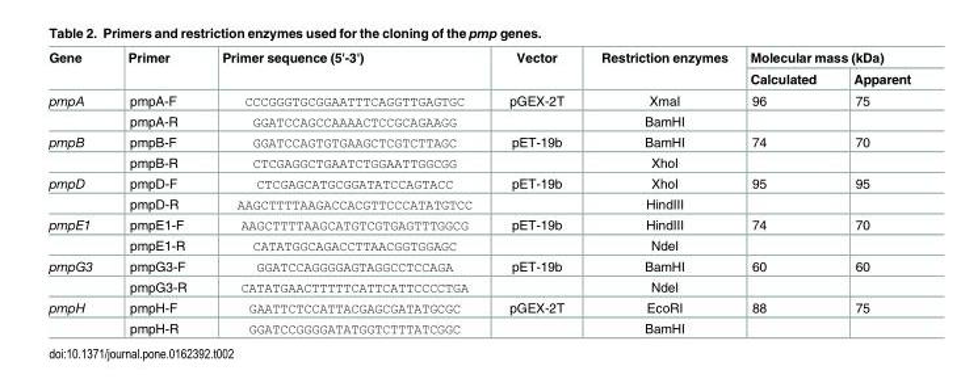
<table><thead><tr><td rowspan="2">Gene</td><td rowspan="2">Primer</td><td rowspan="2">Primer sequence (5&#x27;-3&#x27;)</td><td rowspan="2">Vector</td><td rowspan="2">Restriction enzymes</td><td colspan="2">Molecular mass (kDa)</td></tr><tr><td>Calculated</td><td>Apparent</td></tr></thead><tbody><tr><td rowspan="2">pmpA</td><td>pmpA-F</td><td>CCCGGGTGCGGAATTTCAGGTTGAGTGC</td><td>pGEX-2T</td><td>XmaI</td><td>96</td><td>75</td></tr><tr><td>pmpA-R</td><td>GGATCCAGCCAAAACTCCGCAGAAGG</td><td></td><td>BamHI</td><td></td><td></td></tr><tr><td rowspan="2">pmpB</td><td>pmpB-F</td><td>GGATCCAGTGTGAAGCTCGTCTTAGC</td><td>pET-19b</td><td>BamHI</td><td>74</td><td>70</td></tr><tr><td>pmpB-R</td><td>CTCGAGGCTGAATCTGGAATTGGCGG</td><td></td><td>XhoI</td><td></td><td></td></tr><tr><td rowspan="2">pmpD</td><td>pmpD-F</td><td>CTCGAGCATGCGGATATCCAGTACC</td><td>pET-19b</td><td>XhoI</td><td>95</td><td>95</td></tr><tr><td>pmpD-R</td><td>AAGCTTTTAAGACCACGTTCCCATATGTCC</td><td></td><td>HindIII</td><td></td><td></td></tr><tr><td rowspan="2">pmpE1</td><td>pmpE1-F</td><td>AAGCTTTTAAGCATGTCGTGAGTTTGGCG</td><td>pET-19b</td><td>HindIII</td><td>74</td><td>70</td></tr><tr><td>pmpE1-R</td><td>CATATGGCAGACCTTAACGGTGGAGC</td><td></td><td>NdeI</td><td></td><td></td></tr><tr><td rowspan="2">pmpG3</td><td>pmpG3-F</td><td>GGATCCAGGGGAGTAGGCCTCCAGA</td><td>pET-19b</td><td>BamHI</td><td>60</td><td>60</td></tr><tr><td>pmpG3-R</td><td>CATATGAACTTTTTCATTCATTCCCCTGA</td><td></td><td>NdeI</td><td></td><td></td></tr><tr><td rowspan="2">pmpH</td><td>pmpH-F</td><td>GAATTCTCCATTACGAGCGATATGCGC</td><td>pGEX-2T</td><td>EcoRI</td><td>88</td><td>75</td></tr><tr><td>pmpH-R</td><td>GGATCCGGGGATATGGTCTTTATCGGC</td><td></td><td>BamHI</td><td></td><td></td></tr></tbody></table>